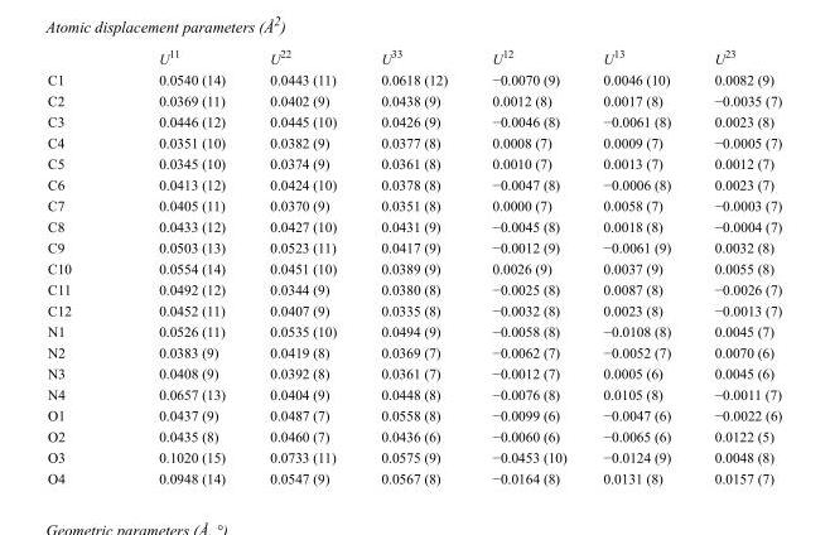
<table><thead><tr><td></td><td>U<sup>11</sup></td><td>U<sup>22</sup></td><td>U<sup>33</sup></td><td>U<sup>12</sup></td><td>U<sup>13</sup></td><td>U<sup>23</sup></td></tr></thead><tbody><tr><td>C1</td><td>0.0540 (14)</td><td>0.0443 (11)</td><td>0.0618 (12)</td><td>−0.0070 (9)</td><td>0.0046 (10)</td><td>0.0082 (9)</td></tr><tr><td>C2</td><td>0.0369 (11)</td><td>0.0402 (9)</td><td>0.0438 (9)</td><td>0.0012 (8)</td><td>0.0017 (8)</td><td>−0.0035 (7)</td></tr><tr><td>C3</td><td>0.0446 (12)</td><td>0.0445 (10)</td><td>0.0426 (9)</td><td>−0.0046 (8)</td><td>−0.0061 (8)</td><td>0.0023 (8)</td></tr><tr><td>C4</td><td>0.0351 (10)</td><td>0.0382 (9)</td><td>0.0377 (8)</td><td>0.0008 (7)</td><td>0.0009 (7)</td><td>−0.0005 (7)</td></tr><tr><td>C5</td><td>0.0345 (10)</td><td>0.0374 (9)</td><td>0.0361 (8)</td><td>0.0010 (7)</td><td>0.0013 (7)</td><td>0.0012 (7)</td></tr><tr><td>C6</td><td>0.0413 (12)</td><td>0.0424 (10)</td><td>0.0378 (8)</td><td>−0.0047 (8)</td><td>−0.0006 (8)</td><td>0.0023 (7)</td></tr><tr><td>C7</td><td>0.0405 (11)</td><td>0.0370 (9)</td><td>0.0351 (8)</td><td>0.0000 (7)</td><td>0.0058 (7)</td><td>−0.0003 (7)</td></tr><tr><td>C8</td><td>0.0433 (12)</td><td>0.0427 (10)</td><td>0.0431 (9)</td><td>−0.0045 (8)</td><td>0.0018 (8)</td><td>−0.0004 (7)</td></tr><tr><td>C9</td><td>0.0503 (13)</td><td>0.0523 (11)</td><td>0.0417 (9)</td><td>−0.0012 (9)</td><td>−0.0061 (9)</td><td>0.0032 (8)</td></tr><tr><td>C10</td><td>0.0554 (14)</td><td>0.0451 (10)</td><td>0.0389 (9)</td><td>0.0026 (9)</td><td>0.0037 (9)</td><td>0.0055 (8)</td></tr><tr><td>C11</td><td>0.0492 (12)</td><td>0.0344 (9)</td><td>0.0380 (8)</td><td>−0.0025 (8)</td><td>0.0087 (8)</td><td>−0.0026 (7)</td></tr><tr><td>C12</td><td>0.0452 (11)</td><td>0.0407 (9)</td><td>0.0335 (8)</td><td>−0.0032 (8)</td><td>0.0023 (8)</td><td>−0.0013 (7)</td></tr><tr><td>N1</td><td>0.0526 (11)</td><td>0.0535 (10)</td><td>0.0494 (9)</td><td>−0.0058 (8)</td><td>−0.0108 (8)</td><td>0.0045 (7)</td></tr><tr><td>N2</td><td>0.0383 (9)</td><td>0.0419 (8)</td><td>0.0369 (7)</td><td>−0.0062 (7)</td><td>−0.0052 (7)</td><td>0.0070 (6)</td></tr><tr><td>N3</td><td>0.0408 (9)</td><td>0.0392 (8)</td><td>0.0361 (7)</td><td>−0.0012 (7)</td><td>0.0005 (6)</td><td>0.0045 (6)</td></tr><tr><td>N4</td><td>0.0657 (13)</td><td>0.0404 (9)</td><td>0.0448 (8)</td><td>−0.0076 (8)</td><td>0.0105 (8)</td><td>−0.0011 (7)</td></tr><tr><td>O1</td><td>0.0437 (9)</td><td>0.0487 (7)</td><td>0.0558 (8)</td><td>−0.0099 (6)</td><td>−0.0047 (6)</td><td>−0.0022 (6)</td></tr><tr><td>O2</td><td>0.0435 (8)</td><td>0.0460 (7)</td><td>0.0436 (6)</td><td>−0.0060 (6)</td><td>−0.0065 (6)</td><td>0.0122 (5)</td></tr><tr><td>O3</td><td>0.1020 (15)</td><td>0.0733 (11)</td><td>0.0575 (9)</td><td>−0.0453 (10)</td><td>−0.0124 (9)</td><td>0.0048 (8)</td></tr><tr><td>O4</td><td>0.0948 (14)</td><td>0.0547 (9)</td><td>0.0567 (8)</td><td>−0.0164 (8)</td><td>0.0131 (8)</td><td>0.0157 (7)</td></tr></tbody></table>